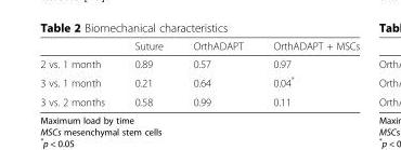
<table><thead><tr><td></td><td>Suture</td><td>OrthADAPT</td><td>OrthADAPT + MSCs</td></tr></thead><tbody><tr><td>2 vs. 1 month</td><td>0.89</td><td>0.57</td><td>0.97</td></tr><tr><td>3 vs. 1 month</td><td>0.21</td><td>0.64</td><td>0.04*</td></tr><tr><td>3 vs. 2 months</td><td>0.58</td><td>0.99</td><td>0.11</td></tr></tbody></table>